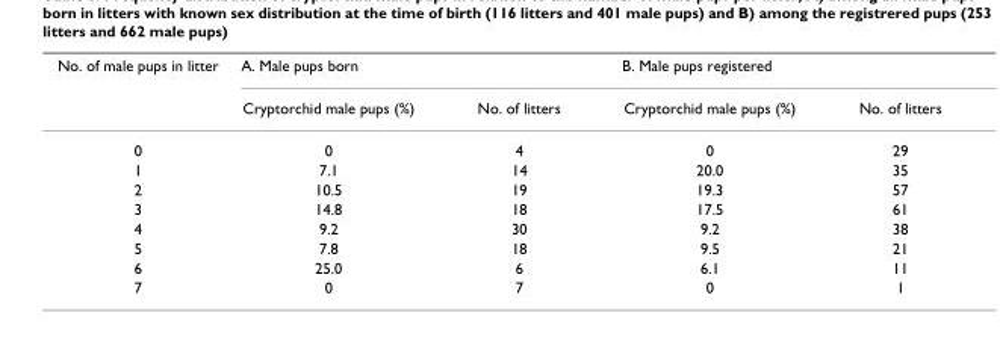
<table><thead><tr><td rowspan="2">No. of male pups in litter</td><td colspan="2">A. Male pups born</td><td colspan="2">B. Male pups registered</td></tr><tr><td>Cryptorchid male pups (%)</td><td>No. of litters</td><td>Cryptorchid male pups (%)</td><td>No. of litters</td></tr></thead><tbody><tr><td>0</td><td>0</td><td>4</td><td>0</td><td>29</td></tr><tr><td>1</td><td>7.1</td><td>14</td><td>20.0</td><td>35</td></tr><tr><td>2</td><td>10.5</td><td>19</td><td>19.3</td><td>57</td></tr><tr><td>3</td><td>14.8</td><td>18</td><td>17.5</td><td>61</td></tr><tr><td>4</td><td>9.2</td><td>30</td><td>9.2</td><td>38</td></tr><tr><td>5</td><td>7.8</td><td>18</td><td>9.5</td><td>21</td></tr><tr><td>6</td><td>25.0</td><td>6</td><td>6.1</td><td>11</td></tr><tr><td>7</td><td>0</td><td>7</td><td>0</td><td>1</td></tr></tbody></table>